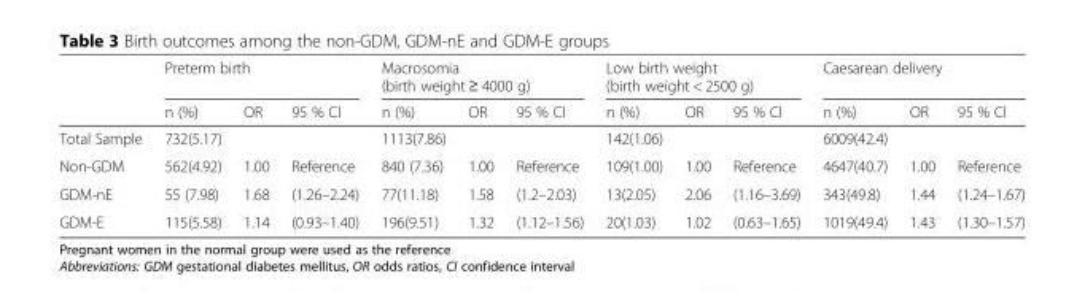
<table><thead><tr><td rowspan="2"></td><td colspan="3">Preterm birth</td><td colspan="3">Macrosomia (birth weight ≥ 4000 g)</td><td colspan="3">Low birth weight (birth weight &lt; 2500 g)</td><td colspan="3">Caesarean delivery</td></tr><tr><td>n (%)</td><td>OR</td><td>95 % CI</td><td>n (%)</td><td>OR</td><td>95 % CI</td><td>n (%)</td><td>OR</td><td>95 % CI</td><td>n (%)</td><td>OR</td><td>95 % CI</td></tr></thead><tbody><tr><td>Total Sample</td><td>732(5.17)</td><td></td><td></td><td>1113(7.86)</td><td></td><td></td><td>142(1.06)</td><td></td><td></td><td>6009(42.4)</td><td></td><td></td></tr><tr><td>Non-GDM</td><td>562(4.92)</td><td>1.00</td><td>Reference</td><td>840 (7.36)</td><td>1.00</td><td>Reference</td><td>109(1.00)</td><td>1.00</td><td>Reference</td><td>4647(40.7)</td><td>1.00</td><td>Reference</td></tr><tr><td>GDM-nE</td><td>55 (7.98)</td><td>1.68</td><td>(1.26–2.24)</td><td>77(11.18)</td><td>1.58</td><td>(1.2–2.03)</td><td>13(2.05)</td><td>2.06</td><td>(1.16–3.69)</td><td>343(49.8)</td><td>1.44</td><td>(1.24–1.67)</td></tr><tr><td>GDM-E</td><td>115(5.58)</td><td>1.14</td><td>(0.93–1.40)</td><td>196(9.51)</td><td>1.32</td><td>(1.12–1.56)</td><td>20(1.03)</td><td>1.02</td><td>(0.63–1.65)</td><td>1019(49.4)</td><td>1.43</td><td>(1.30–1.57)</td></tr></tbody></table>